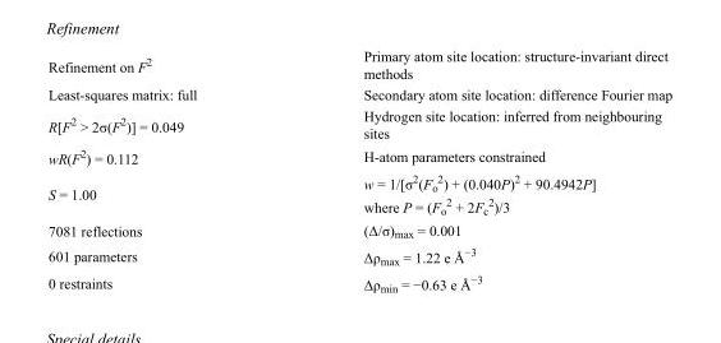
<table><tbody><tr><td>Refinement on F<sup>2</sup></td><td>Primary atom site location: structure-invariant direct methods</td></tr><tr><td>Least-squares matrix: full</td><td>Secondary atom site location: difference Fourier map</td></tr><tr><td>R[F<sup>2</sup> &gt; 2σ(F<sup>2</sup>)] = 0.049</td><td>Hydrogen site location: inferred from neighbouring sites</td></tr><tr><td>wR(F<sup>2</sup>) = 0.112</td><td>H-atom parameters constrained</td></tr><tr><td>S = 1.00</td><td>w = 1/[σ<sup>2</sup>(F<sub>o</sub> <sup>2</sup>) + (0.040P)<sup>2</sup> + 90.4942P] where P = (F<sub>o</sub> <sup>2</sup> + 2F<sub>c</sub> <sup>2</sup>)/3</td></tr><tr><td>7081 reflections</td><td>(Δ/σ)<sub>max</sub> = 0.001</td></tr><tr><td>601 parameters</td><td>Δρ<sub>max</sub> = 1.22 e Å<sup>−3</sup></td></tr><tr><td>0 restraints</td><td>Δρ<sub>min</sub> = −0.63 e Å<sup>−3</sup></td></tr></tbody></table>